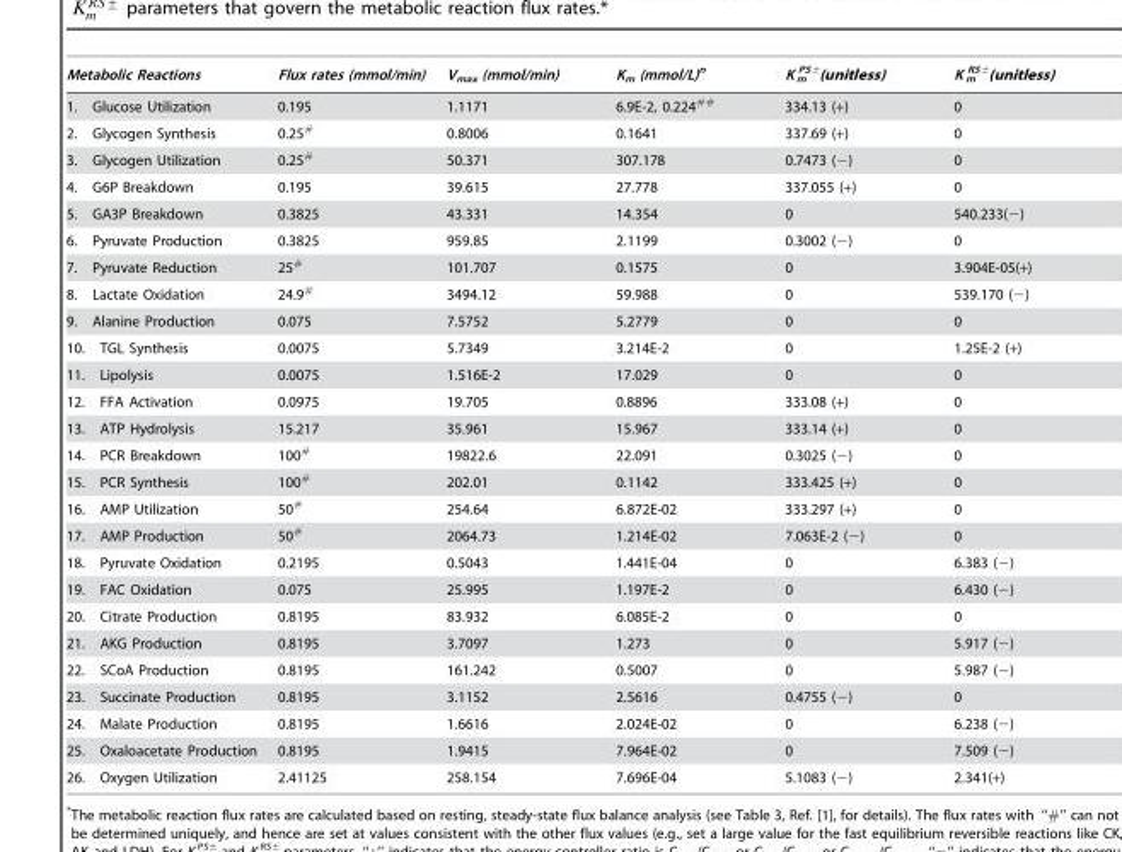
<table><thead><tr><td>Metabolic Reactions</td><td>Flux rates (mmol/min)</td><td>V<sub>max</sub> (mmol/min)</td><td>K<sub>m</sub> (mmol/L)<sup>n</sup></td><td>K PS± m (unitless)</td><td>K RS± m (unitless)</td></tr></thead><tbody><tr><td>1. Glucose Utilization</td><td>0.195</td><td>1.1171</td><td>6.9E-2, 0.224<sup>##</sup></td><td>334.13 (+)</td><td>0</td></tr><tr><td>2. Glycogen Synthesis</td><td>0.25<sup>#</sup></td><td>0.8006</td><td>0.1641</td><td>337.69 (+)</td><td>0</td></tr><tr><td>3. Glycogen Utilization</td><td>0.25<sup>#</sup></td><td>50.371</td><td>307.178</td><td>0.7473 (−)</td><td>0</td></tr><tr><td>4. G6P Breakdown</td><td>0.195</td><td>39.615</td><td>27.778</td><td>337.055 (+)</td><td>0</td></tr><tr><td>5. GA3P Breakdown</td><td>0.3825</td><td>43.331</td><td>14.354</td><td>0</td><td>540.233(−)</td></tr><tr><td>6. Pyruvate Production</td><td>0.3825</td><td>959.85</td><td>2.1199</td><td>0.3002 (−)</td><td>0</td></tr><tr><td>7. Pyruvate Reduction</td><td>25<sup>#</sup></td><td>101.707</td><td>0.1575</td><td>0</td><td>3.904E-05(+)</td></tr><tr><td>8. Lactate Oxidation</td><td>24.9<sup>#</sup></td><td>3494.12</td><td>59.988</td><td>0</td><td>539.170 (−)</td></tr><tr><td>9. Alanine Production</td><td>0.075</td><td>7.5752</td><td>5.2779</td><td>0</td><td>0</td></tr><tr><td>10. TGL Synthesis</td><td>0.0075</td><td>5.7349</td><td>3.214E-2</td><td>0</td><td>1.25E-2 (+)</td></tr><tr><td>11. Lipolysis</td><td>0.0075</td><td>1.516E-2</td><td>17.029</td><td>0</td><td>0</td></tr><tr><td>12. FFA Activation</td><td>0.0975</td><td>19.705</td><td>0.8896</td><td>333.08 (+)</td><td>0</td></tr><tr><td>13. ATP Hydrolysis</td><td>15.217</td><td>35.961</td><td>15.967</td><td>333.14 (+)</td><td>0</td></tr><tr><td>14. PCR Breakdown</td><td>100<sup>#</sup></td><td>19822.6</td><td>22.091</td><td>0.3025 (−)</td><td>0</td></tr><tr><td>15. PCR Synthesis</td><td>100<sup>#</sup></td><td>202.01</td><td>0.1142</td><td>333.425 (+)</td><td>0</td></tr><tr><td>16. AMP Utilization</td><td>50<sup>#</sup></td><td>254.64</td><td>6.872E-02</td><td>333.297 (+)</td><td>0</td></tr><tr><td>17. AMP Production</td><td>50<sup>#</sup></td><td>2064.73</td><td>1.214E-02</td><td>7.063E-2 (−)</td><td>0</td></tr><tr><td>18. Pyruvate Oxidation</td><td>0.2195</td><td>0.5043</td><td>1.441E-04</td><td>0</td><td>6.383 (−)</td></tr><tr><td>19. FAC Oxidation</td><td>0.075</td><td>25.995</td><td>1.197E-2</td><td>0</td><td>6.430 (−)</td></tr><tr><td>20. Citrate Production</td><td>0.8195</td><td>83.932</td><td>6.085E-2</td><td>0</td><td>0</td></tr><tr><td>21. AKG Production</td><td>0.8195</td><td>3.7097</td><td>1.273</td><td>0</td><td>5.917 (−)</td></tr><tr><td>22. SCoA Production</td><td>0.8195</td><td>161.242</td><td>0.5007</td><td>0</td><td>5.987 (−)</td></tr><tr><td>23. Succinate Production</td><td>0.8195</td><td>3.1152</td><td>2.5616</td><td>0.4755 (−)</td><td>0</td></tr><tr><td>24. Malate Production</td><td>0.8195</td><td>1.6616</td><td>2.024E-02</td><td>0</td><td>6.238 (−)</td></tr><tr><td>25. Oxaloacetate Production</td><td>0.8195</td><td>1.9415</td><td>7.964E-02</td><td>0</td><td>7.509 (−)</td></tr><tr><td>26. Oxygen Utilization</td><td>2.41125</td><td>258.154</td><td>7.696E-04</td><td>5.1083 (−)</td><td>2.341(+)</td></tr></tbody></table>